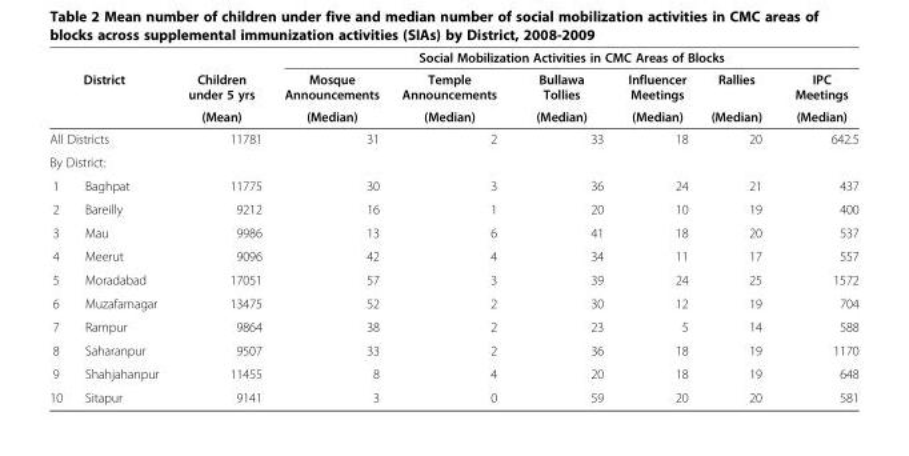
<table><thead><tr><td></td><td></td><td rowspan="3">Children under 5 yrs (Mean)</td><td colspan="6">Social Mobilization Activities in CMC Areas of Blocks</td></tr><tr><td rowspan="2" colspan="2">District</td><td rowspan="2">Mosque Announcements (Median)</td><td rowspan="2">Temple Announcements (Median)</td><td rowspan="2">Bullawa Tollies (Median)</td><td rowspan="2">Influencer Meetings (Median)</td><td rowspan="2">Rallies (Median)</td><td rowspan="2">IPC Meetings (Median)</td></tr><tr></tr></thead><tbody><tr><td colspan="2">All Districts</td><td>11781</td><td>31</td><td>2</td><td>33</td><td>18</td><td>20</td><td>642.5</td></tr><tr><td colspan="9">By District:</td></tr><tr><td>1</td><td>Baghpat</td><td>11775</td><td>30</td><td>3</td><td>36</td><td>24</td><td>21</td><td>437</td></tr><tr><td>2</td><td>Bareilly</td><td>9212</td><td>16</td><td>1</td><td>20</td><td>10</td><td>19</td><td>400</td></tr><tr><td>3</td><td>Mau</td><td>9986</td><td>13</td><td>6</td><td>41</td><td>18</td><td>20</td><td>537</td></tr><tr><td>4</td><td>Meerut</td><td>9096</td><td>42</td><td>4</td><td>34</td><td>11</td><td>17</td><td>557</td></tr><tr><td>5</td><td>Moradabad</td><td>17051</td><td>57</td><td>3</td><td>39</td><td>24</td><td>25</td><td>1572</td></tr><tr><td>6</td><td>Muzafarnagar</td><td>13475</td><td>52</td><td>2</td><td>30</td><td>12</td><td>19</td><td>704</td></tr><tr><td>7</td><td>Rampur</td><td>9864</td><td>38</td><td>2</td><td>23</td><td>5</td><td>14</td><td>588</td></tr><tr><td>8</td><td>Saharanpur</td><td>9507</td><td>33</td><td>2</td><td>36</td><td>18</td><td>19</td><td>1170</td></tr><tr><td>9</td><td>Shahjahanpur</td><td>11455</td><td>8</td><td>4</td><td>20</td><td>18</td><td>19</td><td>648</td></tr><tr><td>10</td><td>Sitapur</td><td>9141</td><td>3</td><td>0</td><td>59</td><td>20</td><td>20</td><td>581</td></tr></tbody></table>